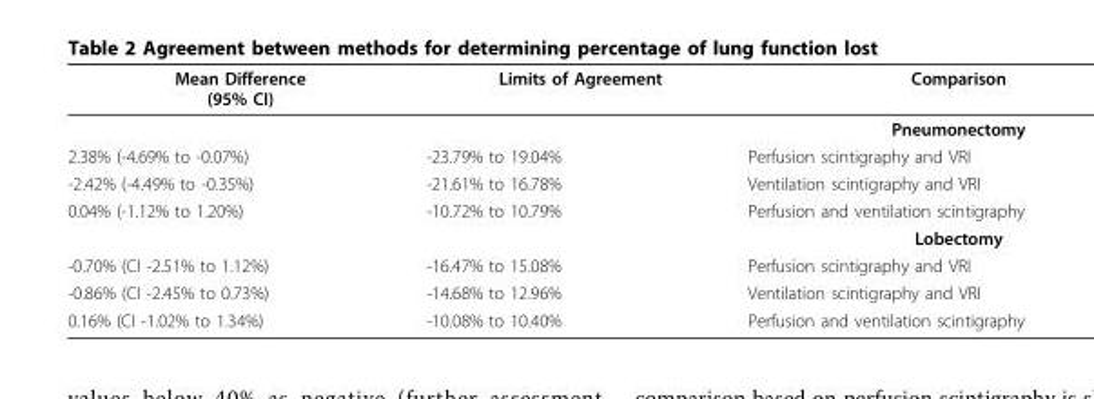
<table><thead><tr><td>Mean Difference (95% CI)</td><td>Limits of Agreement</td><td>Comparison</td></tr></thead><tbody><tr><td></td><td></td><td>Pneumonectomy</td></tr><tr><td>2.38% (-4.69% to -0.07%)</td><td>-23.79% to 19.04%</td><td>Perfusion scintigraphy and VRI</td></tr><tr><td>-2.42% (-4.49% to -0.35%)</td><td>-21.61% to 16.78%</td><td>Ventilation scintigraphy and VRI</td></tr><tr><td rowspan="2">0.04% (-1.12% to 1.20%)</td><td>-10.72% to 10.79%</td><td>Perfusion and ventilation scintigraphy</td></tr><tr><td></td><td>Lobectomy</td></tr><tr><td>-0.70% (CI -2.51% to 1.12%)</td><td>-16.47% to 15.08%</td><td>Perfusion scintigraphy and VRI</td></tr><tr><td>-0.86% (CI -2.45% to 0.73%)</td><td>-14.68% to 12.96%</td><td>Ventilation scintigraphy and VRI</td></tr><tr><td>0.16% (CI -1.02% to 1.34%)</td><td>-10.08% to 10.40%</td><td>Perfusion and ventilation scintigraphy</td></tr></tbody></table>